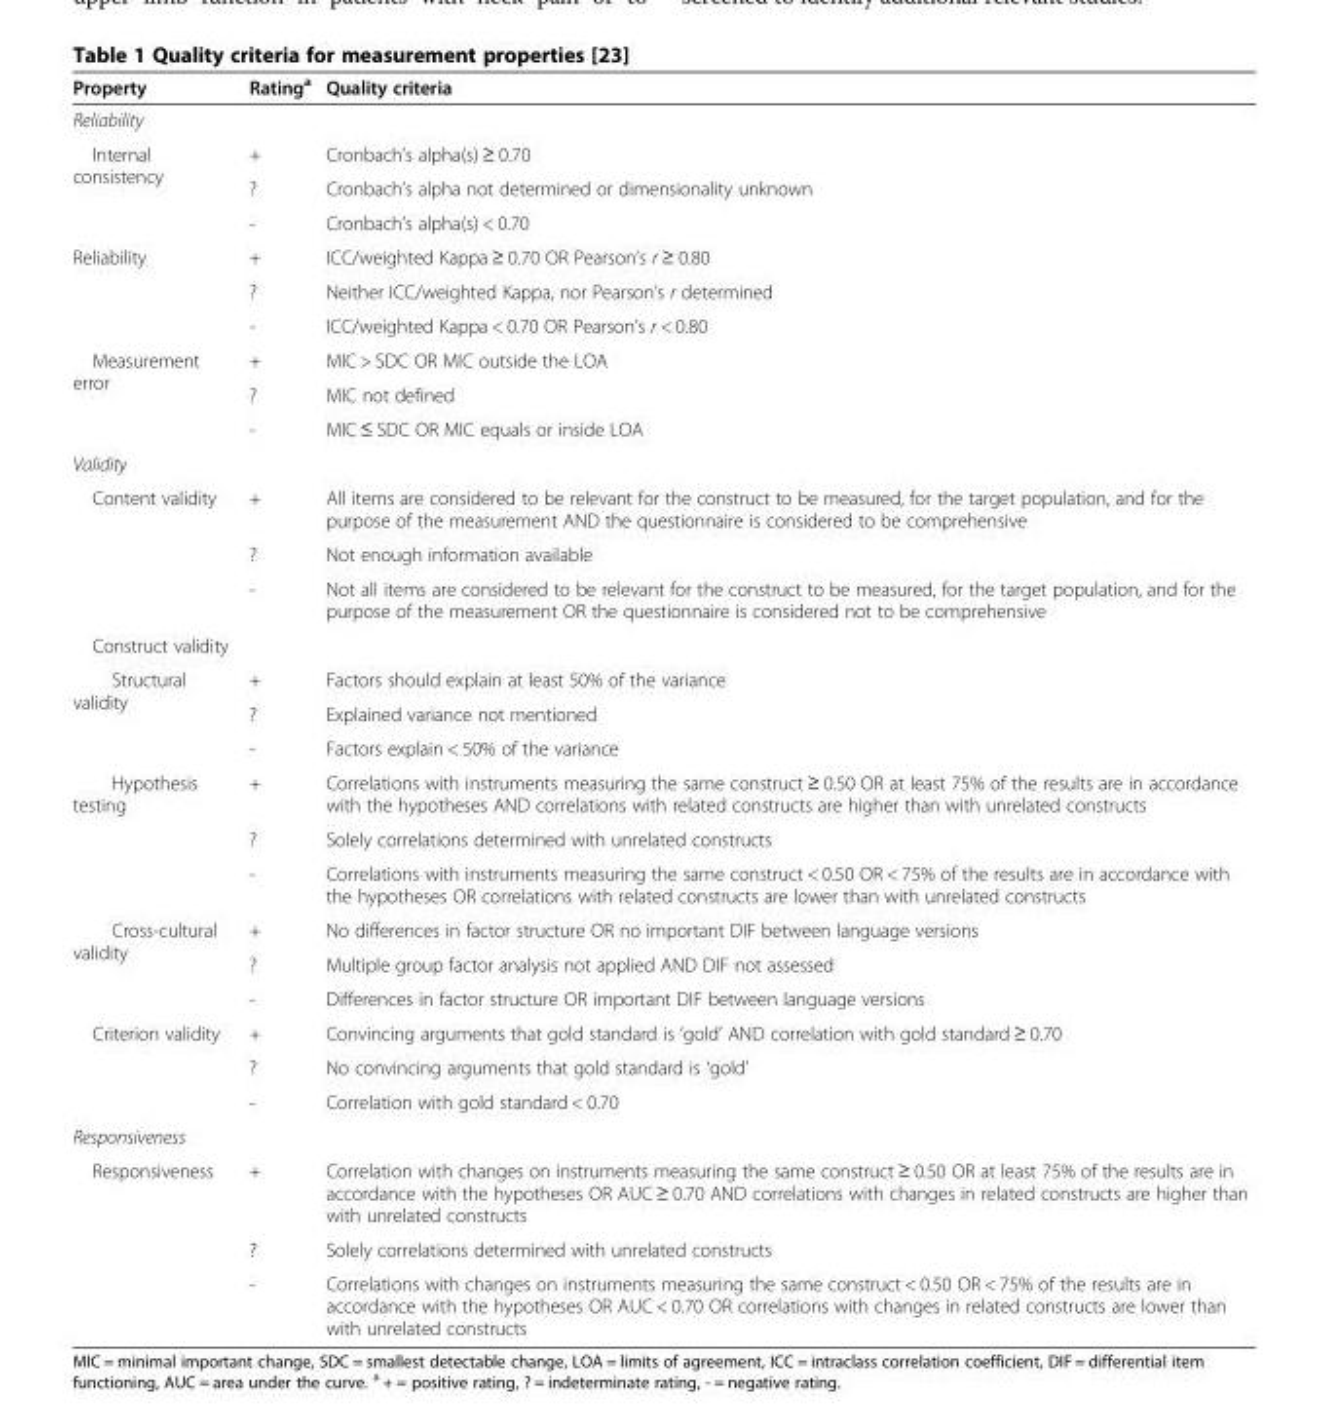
<table><thead><tr><td>Property</td><td>Rating<sup>a</sup></td><td>Quality criteria</td></tr></thead><tbody><tr><td colspan="3">Reliability</td></tr><tr><td rowspan="3">Internal consistency</td><td>+</td><td>Cronbach’s alpha(s) ≥ 0.70</td></tr><tr><td>?</td><td>Cronbach’s alpha not determined or dimensionality unknown</td></tr><tr><td>-</td><td>Cronbach’s alpha(s) &lt; 0.70</td></tr><tr><td rowspan="3">Reliability</td><td>+</td><td>ICC/weighted Kappa ≥ 0.70 OR Pearson’s r ≥ 0.80</td></tr><tr><td>?</td><td>Neither ICC/weighted Kappa, nor Pearson’s r determined</td></tr><tr><td>-</td><td>ICC/weighted Kappa &lt; 0.70 OR Pearson’s r &lt; 0.80</td></tr><tr><td rowspan="3">Measurement error</td><td>+</td><td>MIC &gt; SDC OR MIC outside the LOA</td></tr><tr><td>?</td><td>MIC not defined</td></tr><tr><td>-</td><td>MIC ≤ SDC OR MIC equals or inside LOA</td></tr><tr><td colspan="3">Validity</td></tr><tr><td rowspan="3">Content validity</td><td>+</td><td>All items are considered to be relevant for the construct to be measured, for the target population, and for the purpose of the measurement AND the questionnaire is considered to be comprehensive</td></tr><tr><td>?</td><td>Not enough information available</td></tr><tr><td>-</td><td>Not all items are considered to be relevant for the construct to be measured, for the target population, and for the purpose of the measurement OR the questionnaire is considered not to be comprehensive</td></tr><tr><td colspan="3">Construct validity</td></tr><tr><td rowspan="3">Structural validity</td><td>+</td><td>Factors should explain at least 50% of the variance</td></tr><tr><td>?</td><td>Explained variance not mentioned</td></tr><tr><td>-</td><td>Factors explain &lt; 50% of the variance</td></tr><tr><td rowspan="3">Hypothesis testing</td><td>+</td><td>Correlations with instruments measuring the same construct ≥ 0.50 OR at least 75% of the results are in accordance with the hypotheses AND correlations with related constructs are higher than with unrelated constructs</td></tr><tr><td>?</td><td>Solely correlations determined with unrelated constructs</td></tr><tr><td>-</td><td>Correlations with instruments measuring the same construct &lt; 0.50 OR &lt; 75% of the results are in accordance with the hypotheses OR correlations with related constructs are lower than with unrelated constructs</td></tr><tr><td rowspan="3">Cross-cultural validity</td><td>+</td><td>No differences in factor structure OR no important DIF between language versions</td></tr><tr><td>?</td><td>Multiple group factor analysis not applied AND DIF not assessed</td></tr><tr><td>-</td><td>Differences in factor structure OR important DIF between language versions</td></tr><tr><td rowspan="3">Criterion validity</td><td>+</td><td>Convincing arguments that gold standard is ‘gold’ AND correlation with gold standard ≥ 0.70</td></tr><tr><td>?</td><td>No convincing arguments that gold standard is ‘gold’</td></tr><tr><td>-</td><td>Correlation with gold standard &lt; 0.70</td></tr><tr><td colspan="3">Responsiveness</td></tr><tr><td rowspan="3">Responsiveness</td><td>+</td><td>Correlation with changes on instruments measuring the same construct ≥ 0.50 OR at least 75% of the results are in accordance with the hypotheses OR AUC ≥ 0.70 AND correlations with changes in related constructs are higher than with unrelated constructs</td></tr><tr><td>?</td><td>Solely correlations determined with unrelated constructs</td></tr><tr><td>-</td><td>Correlations with changes on instruments measuring the same construct &lt; 0.50 OR &lt; 75% of the results are in accordance with the hypotheses OR AUC &lt; 0.70 OR correlations with changes in related constructs are lower than with unrelated constructs</td></tr></tbody></table>